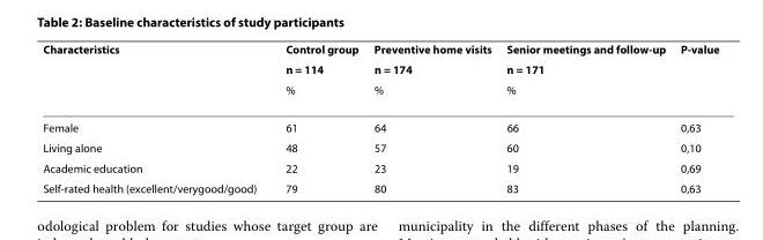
<table><thead><tr><td rowspan="3">Characteristics</td><td rowspan="3">Control group n = 114 %</td><td rowspan="3">Preventive home visits n = 174 %</td><td rowspan="3">Senior meetings and follow-up n = 171 %</td><td rowspan="3">P-value</td></tr><tr></tr><tr></tr></thead><tbody><tr><td>Female</td><td>61</td><td>64</td><td>66</td><td>0,63</td></tr><tr><td>Living alone</td><td>48</td><td>57</td><td>60</td><td>0,10</td></tr><tr><td>Academic education</td><td>22</td><td>23</td><td>19</td><td>0,69</td></tr><tr><td>Self-rated health (excellent/verygood/good)</td><td>79</td><td>80</td><td>83</td><td>0,63</td></tr></tbody></table>